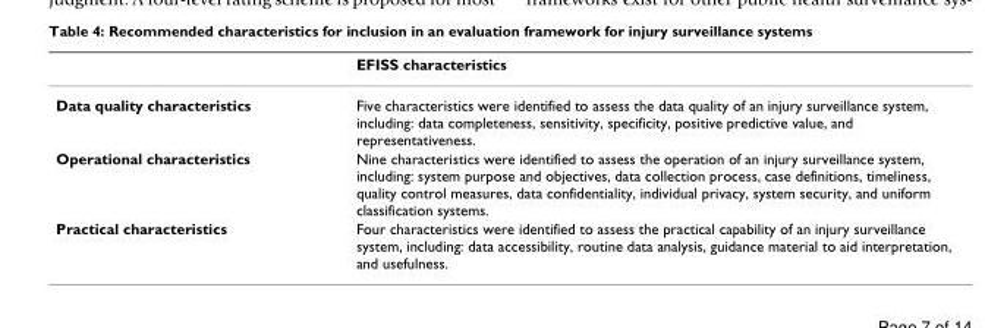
<table><thead><tr><td></td><td>EFISS characteristics</td></tr></thead><tbody><tr><td>Data quality characteristics</td><td>Five characteristics were identified to assess the data quality of an injury surveillance system, including: data completeness, sensitivity, specificity, positive predictive value, and representativeness.</td></tr><tr><td>Operational characteristics</td><td>Nine characteristics were identified to assess the operation of an injury surveillance system, including: system purpose and objectives, data collection process, case definitions, timeliness, quality control measures, data confidentiality, individual privacy, system security, and uniform classification systems.</td></tr><tr><td>Practical characteristics</td><td>Four characteristics were identified to assess the practical capability of an injury surveillance system, including: data accessibility, routine data analysis, guidance material to aid interpretation, and usefulness.</td></tr></tbody></table>